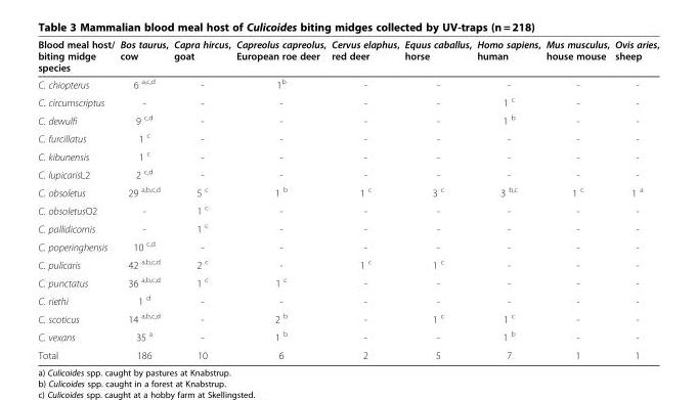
<table><thead><tr><td>Blood meal host/ biting midge species</td><td>Bos taurus, cow</td><td>Capra hircus, goat</td><td>Capreolus capreolus, European roe deer</td><td>Cervus elaphus, red deer</td><td>Equus caballus, horse</td><td>Homo sapiens, human</td><td>Mus musculus, house mouse</td><td>Ovis aries, sheep</td></tr></thead><tbody><tr><td>C. chiopterus</td><td>6 <sup>a,c,d</sup></td><td>-</td><td>1<sup>b</sup></td><td>-</td><td>-</td><td>-</td><td>-</td><td>-</td></tr><tr><td>C. circumscriptus</td><td>-</td><td>-</td><td>-</td><td>-</td><td>-</td><td>1 <sup>c</sup></td><td>-</td><td>-</td></tr><tr><td>C. dewulfi</td><td>9 <sup>c,d</sup></td><td>-</td><td>-</td><td>-</td><td>-</td><td>1 <sup>b</sup></td><td>-</td><td>-</td></tr><tr><td>C. furcillatus</td><td>1 <sup>c</sup></td><td>-</td><td>-</td><td>-</td><td>-</td><td>-</td><td>-</td><td>-</td></tr><tr><td>C. kibunensis</td><td>1 <sup>c</sup></td><td>-</td><td>-</td><td>-</td><td>-</td><td>-</td><td>-</td><td>-</td></tr><tr><td>C. lupicarisL2</td><td>2 <sup>c,d</sup></td><td>-</td><td>-</td><td>-</td><td>-</td><td>-</td><td>-</td><td>-</td></tr><tr><td>C. obsoletus</td><td>29 <sup>a,b,c,d</sup></td><td>5 <sup>c</sup></td><td>1 <sup>b</sup></td><td>1 <sup>c</sup></td><td>3 <sup>c</sup></td><td>3 <sup>b,c</sup></td><td>1 <sup>c</sup></td><td>1 <sup>a</sup></td></tr><tr><td>C. obsoletusO2</td><td>-</td><td>1 <sup>c</sup></td><td>-</td><td>-</td><td>-</td><td>-</td><td>-</td><td>-</td></tr><tr><td>C. pallidicornis</td><td>-</td><td>1 <sup>c</sup></td><td>-</td><td>-</td><td>-</td><td>-</td><td>-</td><td>-</td></tr><tr><td>C. poperinghensis</td><td>10 <sup>c,d</sup></td><td>-</td><td>-</td><td>-</td><td>-</td><td>-</td><td>-</td><td>-</td></tr><tr><td>C. pulicaris</td><td>42 <sup>a,b,c,d</sup></td><td>2 <sup>c</sup></td><td>-</td><td>1 <sup>c</sup></td><td>1 <sup>c</sup></td><td>-</td><td>-</td><td>-</td></tr><tr><td>C. punctatus</td><td>36 <sup>a,b,c,d</sup></td><td>1 <sup>c</sup></td><td>1 <sup>c</sup></td><td>-</td><td>-</td><td>-</td><td>-</td><td>-</td></tr><tr><td>C. riethi</td><td>1 <sup>d</sup></td><td>-</td><td>-</td><td>-</td><td>-</td><td>-</td><td>-</td><td>-</td></tr><tr><td>C. scoticus</td><td>14 <sup>a,b,c,d</sup></td><td>-</td><td>2 <sup>b</sup></td><td>-</td><td>1 <sup>c</sup></td><td>1 <sup>c</sup></td><td>-</td><td>-</td></tr><tr><td>C. vexans</td><td>35 <sup>a</sup></td><td>-</td><td>1 <sup>b</sup></td><td>-</td><td>-</td><td>1 <sup>b</sup></td><td>-</td><td>-</td></tr><tr><td>Total</td><td>186</td><td>10</td><td>6</td><td>2</td><td>5</td><td>7</td><td>1</td><td>1</td></tr></tbody></table>